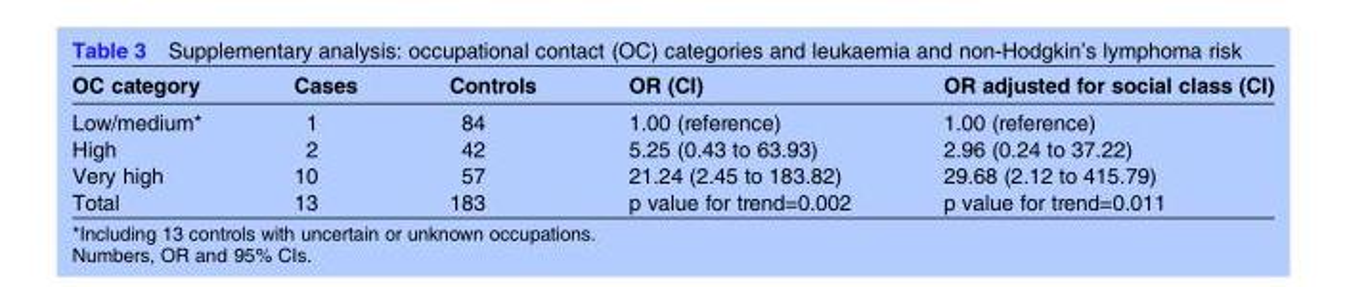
<table><thead><tr><td>OC category</td><td>Cases</td><td>Controls</td><td>OR (CI)</td><td>OR adjusted for social class (CI)</td></tr></thead><tbody><tr><td>Low/medium*</td><td>1</td><td>84</td><td>1.00 (reference)</td><td>1.00 (reference)</td></tr><tr><td>High</td><td>2</td><td>42</td><td>5.25 (0.43 to 63.93)</td><td>2.96 (0.24 to 37.22)</td></tr><tr><td>Very high</td><td>10</td><td>57</td><td>21.24 (2.45 to 183.82)</td><td>29.68 (2.12 to 415.79)</td></tr><tr><td>Total</td><td>13</td><td>183</td><td>p value for trend=0.002</td><td>p value for trend=0.011</td></tr></tbody></table>